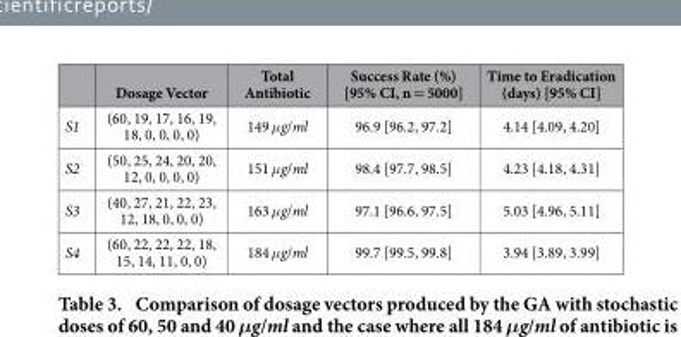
<table><thead><tr><td></td><td>Dosage Vector</td><td>Total Antibiotic</td><td>Success Rate (%) [95% CI, n = 5000]</td><td>Time to Eradication (days) [95% CI]</td></tr></thead><tbody><tr><td>S1</td><td>(60, 19, 17, 16, 19, 18, 0, 0, 0, 0)</td><td>149 μg/ml</td><td>96.9 [96.2, 97.2]</td><td>4.14 [4.09, 4.20]</td></tr><tr><td>S2</td><td>(50, 25, 24, 20, 20, 12, 0, 0, 0, 0)</td><td>151 μg/ml</td><td>98.4 [97.7, 98.5]</td><td>4.23 [4.18, 4.31]</td></tr><tr><td>S3</td><td>(40, 27, 21, 22, 23, 12, 18, 0, 0, 0)</td><td>163 μg/ml</td><td>97.1 [96.6, 97.5]</td><td>5.03 [4.96, 5.11]</td></tr><tr><td>S4</td><td>(60, 22, 22, 22, 18, 15, 14, 11, 0, 0)</td><td>184 μg/ml</td><td>99.7 [99.5, 99.8]</td><td>3.94 [3.89, 3.99]</td></tr></tbody></table>